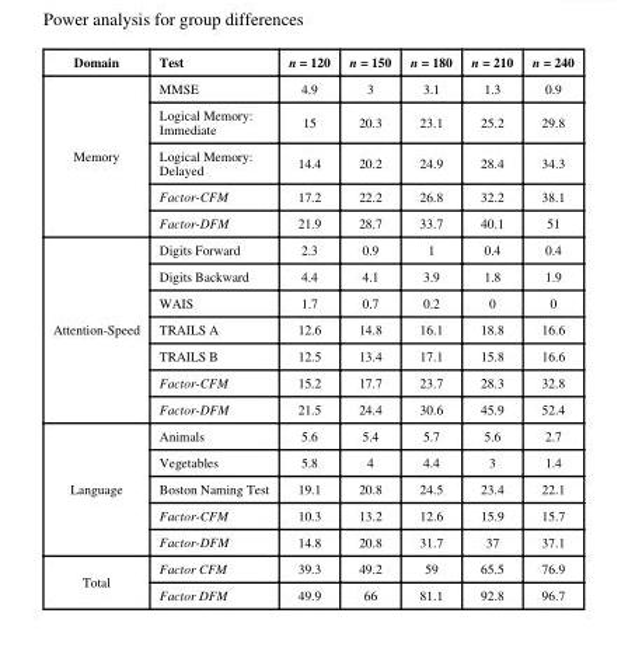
<table><thead><tr><td>Domain</td><td>Test</td><td>n = 120</td><td>n = 150</td><td>n = 180</td><td>n = 210</td><td>n = 240</td></tr></thead><tbody><tr><td rowspan="5">Memory</td><td>MMSE</td><td>4.9</td><td>3</td><td>3.1</td><td>1.3</td><td>0.9</td></tr><tr><td>Logical Memory: Immediate</td><td>15</td><td>20.3</td><td>23.1</td><td>25.2</td><td>29.8</td></tr><tr><td>Logical Memory: Delayed</td><td>14.4</td><td>20.2</td><td>24.9</td><td>28.4</td><td>34.3</td></tr><tr><td>Factor-CFM</td><td>17.2</td><td>22.2</td><td>26.8</td><td>32.2</td><td>38.1</td></tr><tr><td>Factor-DFM</td><td>21.9</td><td>28.7</td><td>33.7</td><td>40.1</td><td>51</td></tr><tr><td rowspan="7">Attention-Speed</td><td>Digits Forward</td><td>2.3</td><td>0.9</td><td>1</td><td>0.4</td><td>0.4</td></tr><tr><td>Digits Backward</td><td>4.4</td><td>4.1</td><td>3.9</td><td>1.8</td><td>1.9</td></tr><tr><td>WAIS</td><td>1.7</td><td>0.7</td><td>0.2</td><td>0</td><td>0</td></tr><tr><td>TRAILS A</td><td>12.6</td><td>14.8</td><td>16.1</td><td>18.8</td><td>16.6</td></tr><tr><td>TRAILS B</td><td>12.5</td><td>13.4</td><td>17.1</td><td>15.8</td><td>16.6</td></tr><tr><td>Factor-CFM</td><td>15.2</td><td>17.7</td><td>23.7</td><td>28.3</td><td>32.8</td></tr><tr><td>Factor-DFM</td><td>21.5</td><td>24.4</td><td>30.6</td><td>45.9</td><td>52.4</td></tr><tr><td rowspan="5">Language</td><td>Animals</td><td>5.6</td><td>5.4</td><td>5.7</td><td>5.6</td><td>2.7</td></tr><tr><td>Vegetables</td><td>5.8</td><td>4</td><td>4.4</td><td>3</td><td>1.4</td></tr><tr><td>Boston Naming Test</td><td>19.1</td><td>20.8</td><td>24.5</td><td>23.4</td><td>22.1</td></tr><tr><td>Factor-CFM</td><td>10.3</td><td>13.2</td><td>12.6</td><td>15.9</td><td>15.7</td></tr><tr><td>Factor-DFM</td><td>14.8</td><td>20.8</td><td>31.7</td><td>37</td><td>37.1</td></tr><tr><td rowspan="2">Total</td><td>Factor CFM</td><td>39.3</td><td>49.2</td><td>59</td><td>65.5</td><td>76.9</td></tr><tr><td>Factor DFM</td><td>49.9</td><td>66</td><td>81.1</td><td>92.8</td><td>96.7</td></tr></tbody></table>